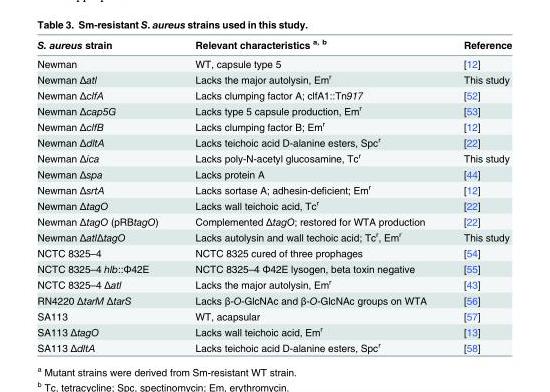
<table><thead><tr><td>S. aureus strain</td><td>Relevant characteristics <sup>a, b</sup></td><td>Reference</td></tr></thead><tbody><tr><td>Newman</td><td>WT, capsule type 5</td><td>[12]</td></tr><tr><td>Newman Δatl</td><td>Lacks the major autolysin, Em<sup>r</sup></td><td>This study</td></tr><tr><td>Newman ΔclfA</td><td>Lacks clumping factor A; clfA1::Tn917</td><td>[52]</td></tr><tr><td>Newman Δcap5G</td><td>Lacks type 5 capsule production, Em<sup>r</sup></td><td>[53]</td></tr><tr><td>Newman ΔclfB</td><td>Lacks clumping factor B; Em<sup>r</sup></td><td>[12]</td></tr><tr><td>Newman ΔdltA</td><td>Lacks teichoic acid D-alanine esters, Spc<sup>r</sup></td><td>[22]</td></tr><tr><td>Newman Δica</td><td>Lacks poly-N-acetyl glucosamine, Tc<sup>r</sup></td><td>This study</td></tr><tr><td>Newman Δspa</td><td>Lacks protein A</td><td>[44]</td></tr><tr><td>Newman ΔsrtA</td><td>Lacks sortase A; adhesin-deficient; Em<sup>r</sup></td><td>[12]</td></tr><tr><td>Newman ΔtagO</td><td>Lacks wall teichoic acid, Tc<sup>r</sup></td><td>[22]</td></tr><tr><td>Newman ΔtagO (pRBtagO)</td><td>Complemented ΔtagO; restored for WTA production</td><td>[22]</td></tr><tr><td>Newman ΔatlΔtagO</td><td>Lacks autolysin and wall techoic acid; Tc<sup>r</sup>, Em<sup>r</sup></td><td>This study</td></tr><tr><td>NCTC 8325–4</td><td>NCTC 8325 cured of three prophages</td><td>[54]</td></tr><tr><td>NCTC 8325–4 hlb::Φ42E</td><td>NCTC 8325–4 Φ42E lysogen, beta toxin negative</td><td>[55]</td></tr><tr><td>NCTC 8325–4 Δatl</td><td>Lacks the major autolysin, Em<sup>r</sup></td><td>[43]</td></tr><tr><td>RN4220 ΔtarM ΔtarS</td><td>Lacks β-O-GlcNAc and β-O-GlcNAc groups on WTA</td><td>[56]</td></tr><tr><td>SA113</td><td>WT, acapsular</td><td>[57]</td></tr><tr><td>SA113 ΔtagO</td><td>Lacks wall teichoic acid, Em<sup>r</sup></td><td>[13]</td></tr><tr><td>SA113 ΔdltA</td><td>Lacks teichoic acid D-alanine esters, Spc<sup>r</sup></td><td>[58]</td></tr></tbody></table>